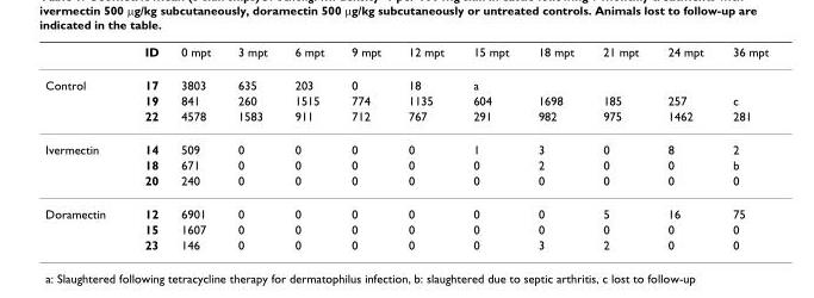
<table><thead><tr><td></td><td>ID</td><td>0 mpt</td><td>3 mpt</td><td>6 mpt</td><td>9 mpt</td><td>12 mpt</td><td>15 mpt</td><td>18 mpt</td><td>21 mpt</td><td>24 mpt</td><td>36 mpt</td></tr></thead><tbody><tr><td rowspan="3">Control</td><td>17</td><td>3803</td><td>635</td><td>203</td><td>0</td><td>18</td><td>a</td><td></td><td></td><td></td><td></td></tr><tr><td>19</td><td>841</td><td>260</td><td>1515</td><td>774</td><td>1135</td><td>604</td><td>1698</td><td>185</td><td>257</td><td>c</td></tr><tr><td>22</td><td>4578</td><td>1583</td><td>911</td><td>712</td><td>767</td><td>291</td><td>982</td><td>975</td><td>1462</td><td>281</td></tr><tr><td rowspan="3">Ivermectin</td><td>14</td><td>509</td><td>0</td><td>0</td><td>0</td><td>0</td><td>1</td><td>3</td><td>0</td><td>8</td><td>2</td></tr><tr><td>18</td><td>671</td><td>0</td><td>0</td><td>0</td><td>0</td><td>0</td><td>2</td><td>0</td><td>0</td><td>b</td></tr><tr><td>20</td><td>240</td><td>0</td><td>0</td><td>0</td><td>0</td><td>0</td><td>0</td><td>0</td><td>0</td><td>0</td></tr><tr><td rowspan="3">Doramectin</td><td>12</td><td>6901</td><td>0</td><td>0</td><td>0</td><td>0</td><td>0</td><td>0</td><td>5</td><td>16</td><td>75</td></tr><tr><td>15</td><td>1607</td><td>0</td><td>0</td><td>0</td><td>0</td><td>0</td><td>0</td><td>0</td><td>0</td><td>0</td></tr><tr><td>23</td><td>146</td><td>0</td><td>0</td><td>0</td><td>0</td><td>0</td><td>3</td><td>2</td><td>0</td><td>0</td></tr></tbody></table>